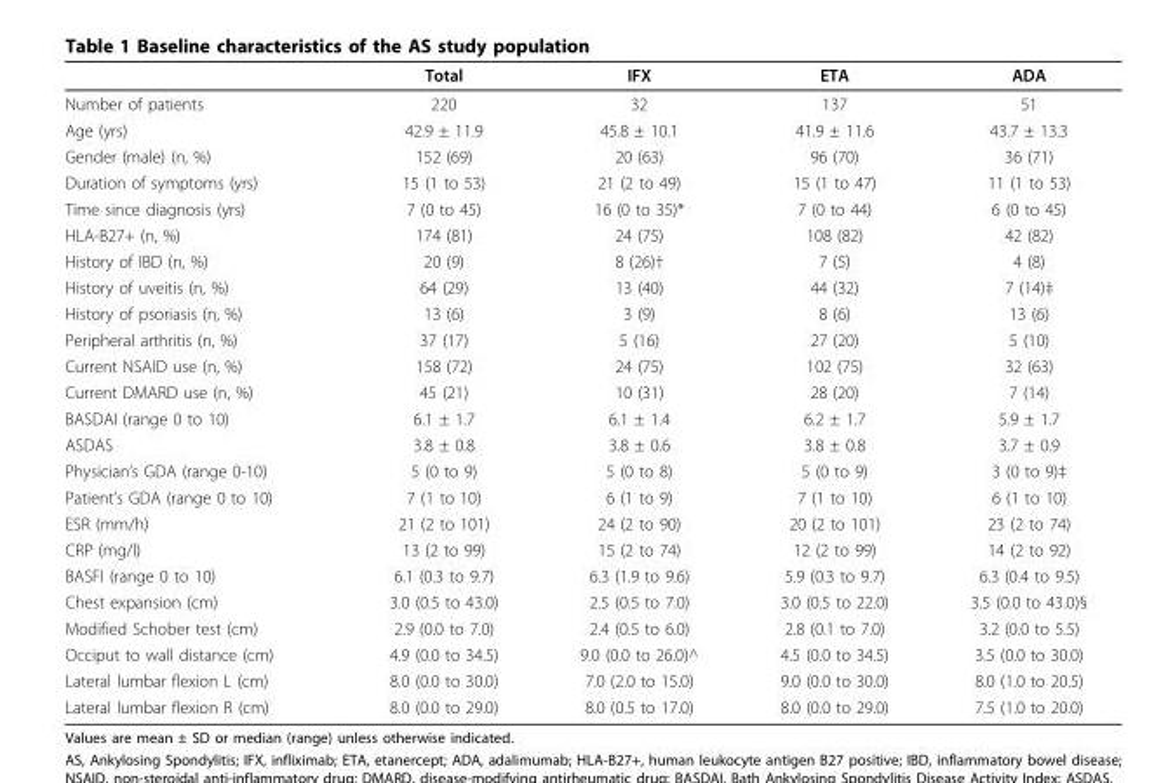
<table><thead><tr><td></td><td>Total</td><td>IFX</td><td>ETA</td><td>ADA</td></tr></thead><tbody><tr><td>Number of patients</td><td>220</td><td>32</td><td>137</td><td>51</td></tr><tr><td>Age (yrs)</td><td>42.9 ± 11.9</td><td>45.8 ± 10.1</td><td>41.9 ± 11.6</td><td>43.7 ± 13.3</td></tr><tr><td>Gender (male) (n, %)</td><td>152 (69)</td><td>20 (63)</td><td>96 (70)</td><td>36 (71)</td></tr><tr><td>Duration of symptoms (yrs)</td><td>15 (1 to 53)</td><td>21 (2 to 49)</td><td>15 (1 to 47)</td><td>11 (1 to 53)</td></tr><tr><td>Time since diagnosis (yrs)</td><td>7 (0 to 45)</td><td>16 (0 to 35)*</td><td>7 (0 to 44)</td><td>6 (0 to 45)</td></tr><tr><td>HLA-B27+ (n, %)</td><td>174 (81)</td><td>24 (75)</td><td>108 (82)</td><td>42 (82)</td></tr><tr><td>History of IBD (n, %)</td><td>20 (9)</td><td>8 (26)†</td><td>7 (5)</td><td>4 (8)</td></tr><tr><td>History of uveitis (n, %)</td><td>64 (29)</td><td>13 (40)</td><td>44 (32)</td><td>7 (14)‡</td></tr><tr><td>History of psoriasis (n, %)</td><td>13 (6)</td><td>3 (9)</td><td>8 (6)</td><td>13 (6)</td></tr><tr><td>Peripheral arthritis (n, %)</td><td>37 (17)</td><td>5 (16)</td><td>27 (20)</td><td>5 (10)</td></tr><tr><td>Current NSAID use (n, %)</td><td>158 (72)</td><td>24 (75)</td><td>102 (75)</td><td>32 (63)</td></tr><tr><td>Current DMARD use (n, %)</td><td>45 (21)</td><td>10 (31)</td><td>28 (20)</td><td>7 (14)</td></tr><tr><td>BASDAI (range 0 to 10)</td><td>6.1 ± 1.7</td><td>6.1 ± 1.4</td><td>6.2 ± 1.7</td><td>5.9 ± 1.7</td></tr><tr><td>ASDAS</td><td>3.8 ± 0.8</td><td>3.8 ± 0.6</td><td>3.8 ± 0.8</td><td>3.7 ± 0.9</td></tr><tr><td>Physician’s GDA (range 0-10)</td><td>5 (0 to 9)</td><td>5 (0 to 8)</td><td>5 (0 to 9)</td><td>3 (0 to 9)‡</td></tr><tr><td>Patient’s GDA (range 0 to 10)</td><td>7 (1 to 10)</td><td>6 (1 to 9)</td><td>7 (1 to 10)</td><td>6 (1 to 10)</td></tr><tr><td>ESR (mm/h)</td><td>21 (2 to 101)</td><td>24 (2 to 90)</td><td>20 (2 to 101)</td><td>23 (2 to 74)</td></tr><tr><td>CRP (mg/l)</td><td>13 (2 to 99)</td><td>15 (2 to 74)</td><td>12 (2 to 99)</td><td>14 (2 to 92)</td></tr><tr><td>BASFI (range 0 to 10)</td><td>6.1 (0.3 to 9.7)</td><td>6.3 (1.9 to 9.6)</td><td>5.9 (0.3 to 9.7)</td><td>6.3 (0.4 to 9.5)</td></tr><tr><td>Chest expansion (cm)</td><td>3.0 (0.5 to 43.0)</td><td>2.5 (0.5 to 7.0)</td><td>3.0 (0.5 to 22.0)</td><td>3.5 (0.0 to 43.0)§</td></tr><tr><td>Modified Schober test (cm)</td><td>2.9 (0.0 to 7.0)</td><td>2.4 (0.5 to 6.0)</td><td>2.8 (0.1 to 7.0)</td><td>3.2 (0.0 to 5.5)</td></tr><tr><td>Occiput to wall distance (cm)</td><td>4.9 (0.0 to 34.5)</td><td>9.0 (0.0 to 26.0)^</td><td>4.5 (0.0 to 34.5)</td><td>3.5 (0.0 to 30.0)</td></tr><tr><td>Lateral lumbar flexion L (cm)</td><td>8.0 (0.0 to 30.0)</td><td>7.0 (2.0 to 15.0)</td><td>9.0 (0.0 to 30.0)</td><td>8.0 (1.0 to 20.5)</td></tr><tr><td>Lateral lumbar flexion R (cm)</td><td>8.0 (0.0 to 29.0)</td><td>8.0 (0.5 to 17.0)</td><td>8.0 (0.0 to 29.0)</td><td>7.5 (1.0 to 20.0)</td></tr></tbody></table>